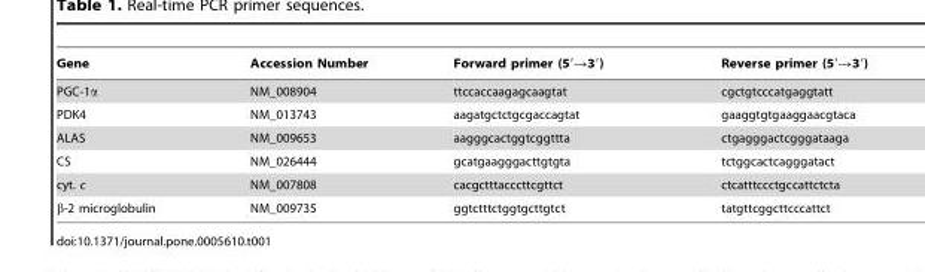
<table><thead><tr><td>Gene</td><td>Accession Number</td><td>Forward primer (5′→3′)</td><td>Reverse primer (5′→3′)</td></tr></thead><tbody><tr><td>PGC-1α</td><td>NM_008904</td><td>ttccaccaagagcaagtat</td><td>cgctgtcccatgaggtatt</td></tr><tr><td>PDK4</td><td>NM_013743</td><td>aagatgctctgcgaccagtat</td><td>gaaggtgtgaaggaacgtaca</td></tr><tr><td>ALAS</td><td>NM_009653</td><td>aagggcactggtcggttta</td><td>ctgagggactcgggataaga</td></tr><tr><td>CS</td><td>NM_026444</td><td>gcatgaagggacttgtgta</td><td>tctggcactcagggatact</td></tr><tr><td>cyt. c</td><td>NM_007808</td><td>cacgctttacccttcgttct</td><td>ctcatttccctgccattctcta</td></tr><tr><td>β-2 microglobulin</td><td>NM_009735</td><td>ggtctttctggtgcttgtct</td><td>tatgttcggcttcccattct</td></tr></tbody></table>